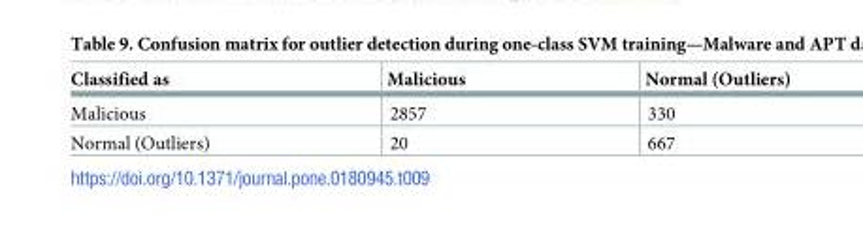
<table><thead><tr><td>Classified as</td><td>Malicious</td><td>Normal (Outliers)</td></tr></thead><tbody><tr><td>Malicious</td><td>2857</td><td>330</td></tr><tr><td>Normal (Outliers)</td><td>20</td><td>667</td></tr></tbody></table>